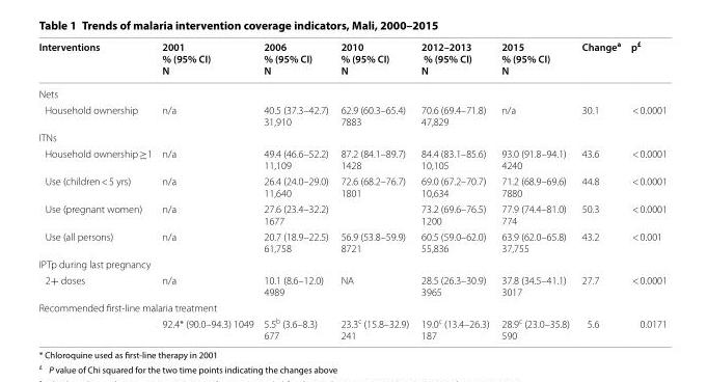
<table><thead><tr><td>Interventions</td><td>2001 % (95% CI) N</td><td>2006 % (95% CI) N</td><td>2010 % (95% CI) N</td><td>2012–2013 % (95% CI) N</td><td>2015 % (95% CI) N</td><td>Change<sup>a</sup></td><td>p<sup>£</sup></td></tr></thead><tbody><tr><td colspan="8">Nets</td></tr><tr><td>Household ownership</td><td>n/a</td><td>40.5 (37.3–42.7) 31,910</td><td>62.9 (60.3–65.4) 7883</td><td>70.6 (69.4–71.8) 47,829</td><td>n/a</td><td>30.1</td><td>&lt; 0.0001</td></tr><tr><td colspan="8">ITNs</td></tr><tr><td>Household ownership ≥1</td><td>n/a</td><td>49.4 (46.6–52.2) 11,109</td><td>87.2 (84.1–89.7) 1428</td><td>84.4 (83.1–85.6) 10,105</td><td>93.0 (91.8–94.1) 4240</td><td>43.6</td><td>&lt; 0.0001</td></tr><tr><td>Use (children &lt; 5 yrs)</td><td>n/a</td><td>26.4 (24.0–29.0) 11,640</td><td>72.6 (68.2–76.7) 1801</td><td>69.0 (67.2–70.7) 10,634</td><td>71.2 (68.9–69.6) 7880</td><td>44.8</td><td>&lt; 0.0001</td></tr><tr><td>Use (pregnant women)</td><td>n/a</td><td>27.6 (23.4–32.2) 1677</td><td></td><td>73.2 (69.6–76.5) 1200</td><td>77.9 (74.4–81.0) 774</td><td>50.3</td><td>&lt; 0.0001</td></tr><tr><td>Use (all persons)</td><td>n/a</td><td>20.7 (18.9–22.5) 61,758</td><td>56.9 (53.8–59.9) 8721</td><td>60.5 (59.0–62.0) 55,836</td><td>63.9 (62.0–65.8) 37,755</td><td>43.2</td><td>&lt; 0.001</td></tr><tr><td colspan="8">IPTp during last pregnancy</td></tr><tr><td>2+ doses</td><td>n/a</td><td>10.1 (8.6–12.0) 4989</td><td>NA</td><td>28.5 (26.3–30.9) 3965</td><td>37.8 (34.5–41.1) 3017</td><td>27.7</td><td>&lt; 0.0001</td></tr><tr><td colspan="8">Recommended first-line malaria treatment</td></tr><tr><td></td><td>92.4* (90.0–94.3) 1049</td><td>5.5<sup>b</sup> (3.6–8.3) 677</td><td>23.3<sup>c</sup> (15.8–32.9) 241</td><td>19.0<sup>c</sup> (13.4–26.3) 187</td><td>28.9<sup>c</sup> (23.0–35.8) 590</td><td>5.6</td><td>0.0171</td></tr></tbody></table>